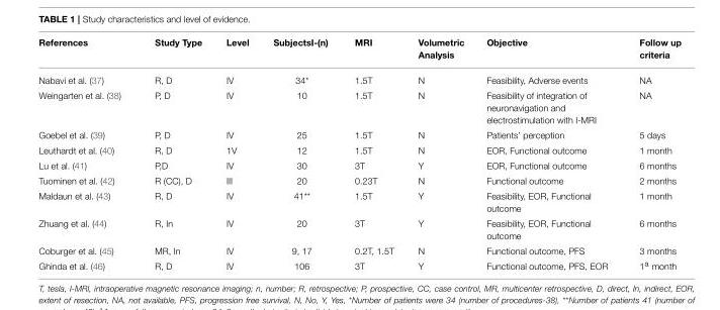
<table><thead><tr><td>References</td><td>Study Type</td><td>Level</td><td>SubjectsI-(n)</td><td>MRI</td><td>Volumetric Analysis</td><td>Objective</td><td>Follow up criteria</td></tr></thead><tbody><tr><td>Nabavi et al. (37)</td><td>R, D</td><td>IV</td><td>34*</td><td>1.5T</td><td>N</td><td>Feasibility, Adverse events</td><td>NA</td></tr><tr><td>Weingarten et al. (38)</td><td>P, D</td><td>IV</td><td>10</td><td>1.5T</td><td>N</td><td>Feasibility of integration of neuronavigation and electrostimulation with I-MRI</td><td>NA</td></tr><tr><td>Goebel et al. (39)</td><td>P, D</td><td>IV</td><td>25</td><td>1.5T</td><td>N</td><td>Patients’ perception</td><td>5 days</td></tr><tr><td>Leuthardt et al. (40)</td><td>R, D</td><td>1V</td><td>12</td><td>1.5T</td><td>N</td><td>EOR, Functional outcome</td><td>1 month</td></tr><tr><td>Lu et al. (41)</td><td>P,D</td><td>IV</td><td>30</td><td>3T</td><td>Y</td><td>EOR, Functional outcome</td><td>6 months</td></tr><tr><td>Tuominen et al. (42)</td><td>R (CC), D</td><td>III</td><td>20</td><td>0.23T</td><td>N</td><td>Functional outcome</td><td>2 months</td></tr><tr><td>Maldaun et al. (43)</td><td>R, D</td><td>IV</td><td>41**</td><td>1.5T</td><td>Y</td><td>Feasibility, EOR, Functional outcome</td><td>1 month</td></tr><tr><td>Zhuang et al. (44)</td><td>R, In</td><td>IV</td><td>20</td><td>3T</td><td>Y</td><td>Feasibility, EOR, Functional outcome</td><td>6 months</td></tr><tr><td>Coburger et al. (45)</td><td>MR, In</td><td>IV</td><td>9, 17</td><td>0.2T, 1.5T</td><td>N</td><td>Functional outcome, PFS</td><td>3 months</td></tr><tr><td>Ghinda et al. (46)</td><td>R, D</td><td>IV</td><td>106</td><td>3T</td><td>Y</td><td>Functional outcome, PFS, EOR</td><td>1<sup>a</sup> month</td></tr></tbody></table>